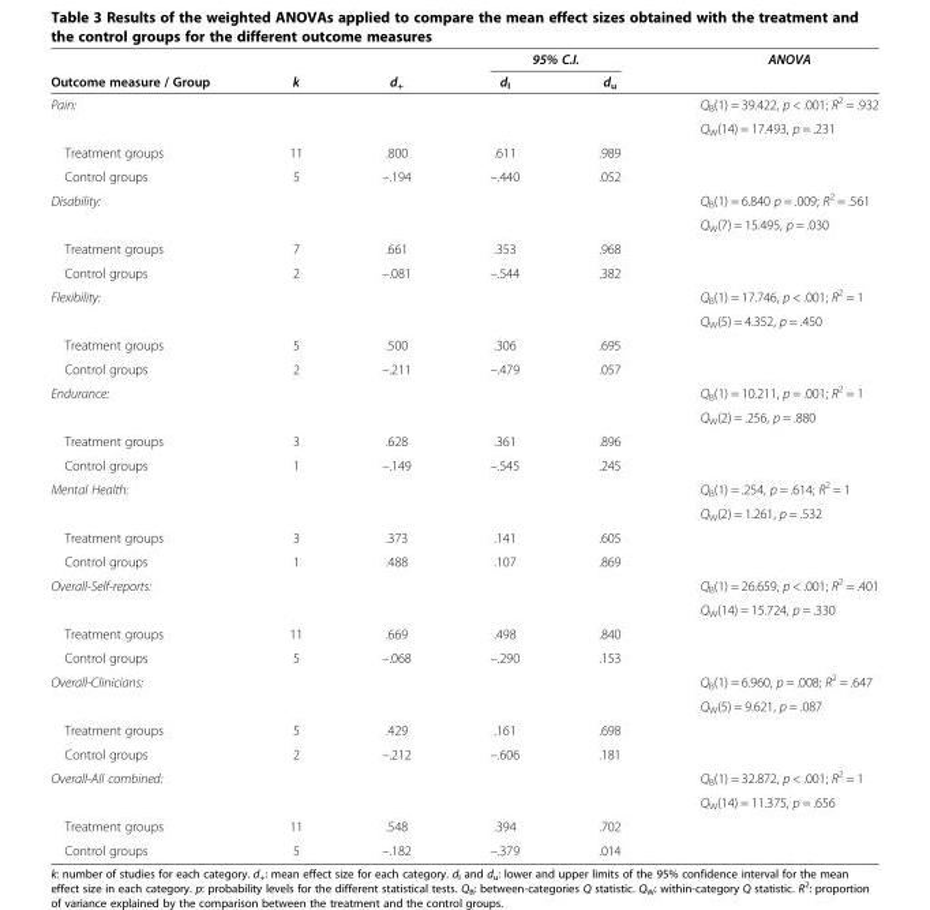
<table><thead><tr><td rowspan="2">Outcome measure / Group</td><td rowspan="2">k</td><td rowspan="2">d<sub>+</sub></td><td colspan="2">95% C.I.</td><td rowspan="2">ANOVA</td></tr><tr><td>d<sub>l</sub></td><td>d<sub>u</sub></td></tr></thead><tbody><tr><td rowspan="2">Pain:</td><td rowspan="2"></td><td rowspan="2"></td><td rowspan="2"></td><td rowspan="2"></td><td>Q<sub>B</sub>(1) = 39.422, p &lt; .001; R<sup>2</sup> = .932</td></tr><tr><td>Q<sub>W</sub>(14) = 17.493, p = .231</td></tr><tr><td>Treatment groups</td><td>11</td><td>.800</td><td>.611</td><td>.989</td><td rowspan="2"></td></tr><tr><td>Control groups</td><td>5</td><td>–.194</td><td>–.440</td><td>.052</td></tr><tr><td rowspan="2">Disability:</td><td rowspan="2"></td><td rowspan="2"></td><td rowspan="2"></td><td rowspan="2"></td><td>Q<sub>B</sub>(1) = 6.840 p = .009; R<sup>2</sup> = .561</td></tr><tr><td>Q<sub>W</sub>(7) = 15.495, p = .030</td></tr><tr><td>Treatment groups</td><td>7</td><td>.661</td><td>.353</td><td>.968</td><td rowspan="2"></td></tr><tr><td>Control groups</td><td>2</td><td>–.081</td><td>–.544</td><td>.382</td></tr><tr><td rowspan="2">Flexibility:</td><td rowspan="2"></td><td rowspan="2"></td><td rowspan="2"></td><td rowspan="2"></td><td>Q<sub>B</sub>(1) = 17.746, p &lt; .001; R<sup>2</sup> = 1</td></tr><tr><td>Q<sub>W</sub>(5) = 4.352, p = .450</td></tr><tr><td>Treatment groups</td><td>5</td><td>.500</td><td>.306</td><td>.695</td><td rowspan="2"></td></tr><tr><td>Control groups</td><td>2</td><td>–.211</td><td>–.479</td><td>.057</td></tr><tr><td rowspan="2">Endurance:</td><td rowspan="2"></td><td rowspan="2"></td><td rowspan="2"></td><td rowspan="2"></td><td>Q<sub>B</sub>(1) = 10.211, p = .001; R<sup>2</sup> = 1</td></tr><tr><td>Q<sub>W</sub>(2) = .256, p = .880</td></tr><tr><td>Treatment groups</td><td>3</td><td>.628</td><td>.361</td><td>.896</td><td rowspan="2"></td></tr><tr><td>Control groups</td><td>1</td><td>–.149</td><td>–.545</td><td>.245</td></tr><tr><td rowspan="2">Mental Health:</td><td rowspan="2"></td><td rowspan="2"></td><td rowspan="2"></td><td rowspan="2"></td><td>Q<sub>B</sub>(1) = .254, p = .614; R<sup>2</sup> = 1</td></tr><tr><td>Q<sub>W</sub>(2) = 1.261, p = .532</td></tr><tr><td>Treatment groups</td><td>3</td><td>.373</td><td>.141</td><td>.605</td><td rowspan="2"></td></tr><tr><td>Control groups</td><td>1</td><td>.488</td><td>.107</td><td>.869</td></tr><tr><td rowspan="2">Overall-Self-reports:</td><td rowspan="2"></td><td rowspan="2"></td><td rowspan="2"></td><td rowspan="2"></td><td>Q<sub>B</sub>(1) = 26.659, p &lt; .001; R<sup>2</sup> = .401</td></tr><tr><td>Q<sub>W</sub>(14) = 15.724, p = .330</td></tr><tr><td>Treatment groups</td><td>11</td><td>.669</td><td>.498</td><td>.840</td><td rowspan="2"></td></tr><tr><td>Control groups</td><td>5</td><td>–.068</td><td>–.290</td><td>.153</td></tr><tr><td rowspan="2">Overall-Clinicians:</td><td rowspan="2"></td><td rowspan="2"></td><td rowspan="2"></td><td rowspan="2"></td><td>Q<sub>B</sub>(1) = 6.960, p = .008; R<sup>2</sup> = .647</td></tr><tr><td>Q<sub>W</sub>(5) = 9.621, p = .087</td></tr><tr><td>Treatment groups</td><td>5</td><td>.429</td><td>.161</td><td>.698</td><td rowspan="2"></td></tr><tr><td>Control groups</td><td>2</td><td>–.212</td><td>–.606</td><td>.181</td></tr><tr><td rowspan="2">Overall-All combined:</td><td rowspan="2"></td><td rowspan="2"></td><td rowspan="2"></td><td rowspan="2"></td><td>Q<sub>B</sub>(1) = 32.872, p &lt; .001; R<sup>2</sup> = 1</td></tr><tr><td>Q<sub>W</sub>(14) = 11.375, p = .656</td></tr><tr><td>Treatment groups</td><td>11</td><td>.548</td><td>.394</td><td>.702</td><td rowspan="2"></td></tr><tr><td>Control groups</td><td>5</td><td>–.182</td><td>–.379</td><td>.014</td></tr></tbody></table>